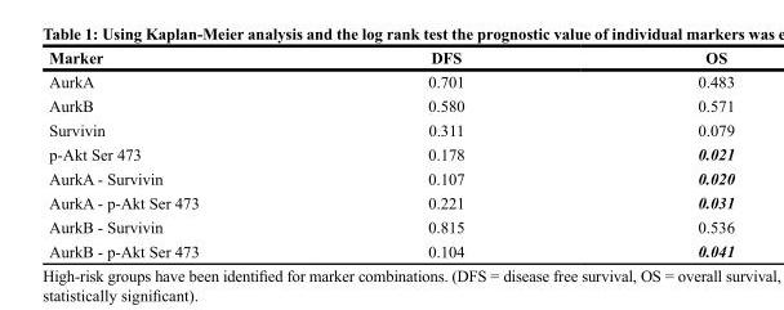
<table><thead><tr><td>Marker</td><td>DFS</td><td>OS</td></tr></thead><tbody><tr><td>AurkA</td><td>0.701</td><td>0.483</td></tr><tr><td>AurkB</td><td>0.580</td><td>0.571</td></tr><tr><td>Survivin</td><td>0.311</td><td>0.079</td></tr><tr><td>p-Akt Ser 473</td><td>0.178</td><td>0.021</td></tr><tr><td>AurkA - Survivin</td><td>0.107</td><td>0.020</td></tr><tr><td>AurkA - p-Akt Ser 473</td><td>0.221</td><td>0.031</td></tr><tr><td>AurkB - Survivin</td><td>0.815</td><td>0.536</td></tr><tr><td>AurkB - p-Akt Ser 473</td><td>0.104</td><td>0.041</td></tr></tbody></table>